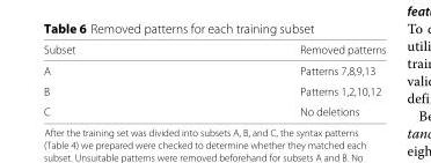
<table><thead><tr><td>Subset</td><td>Removed patterns</td></tr></thead><tbody><tr><td>A</td><td>Patterns 7,8,9,13</td></tr><tr><td>B</td><td>Patterns 1,2,10,12</td></tr><tr><td>C</td><td>No deletions</td></tr></tbody></table>